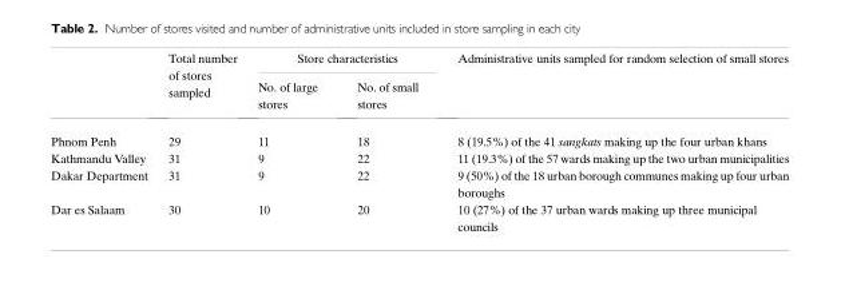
<table><thead><tr><td rowspan="2"></td><td rowspan="2">Total number of stores sampled</td><td colspan="2">Store characteristics</td><td rowspan="2">Administrative units sampled for random selection of small stores</td></tr><tr><td>No. of large stores</td><td>No. of small stores</td></tr></thead><tbody><tr><td>Phnom Penh</td><td>29</td><td>11</td><td>18</td><td>8 (19.5%) of the 41 sangkats making up the four urban khans</td></tr><tr><td>Kathmandu Valley</td><td>31</td><td>9</td><td>22</td><td>11 (19.3%) of the 57 wards making up the two urban municipalities</td></tr><tr><td>Dakar Department</td><td>31</td><td>9</td><td>22</td><td>9 (50%) of the 18 urban borough communes making up four urban boroughs</td></tr><tr><td>Dar es Salaam</td><td>30</td><td>10</td><td>20</td><td>10 (27%) of the 37 urban wards making up three municipal councils</td></tr></tbody></table>